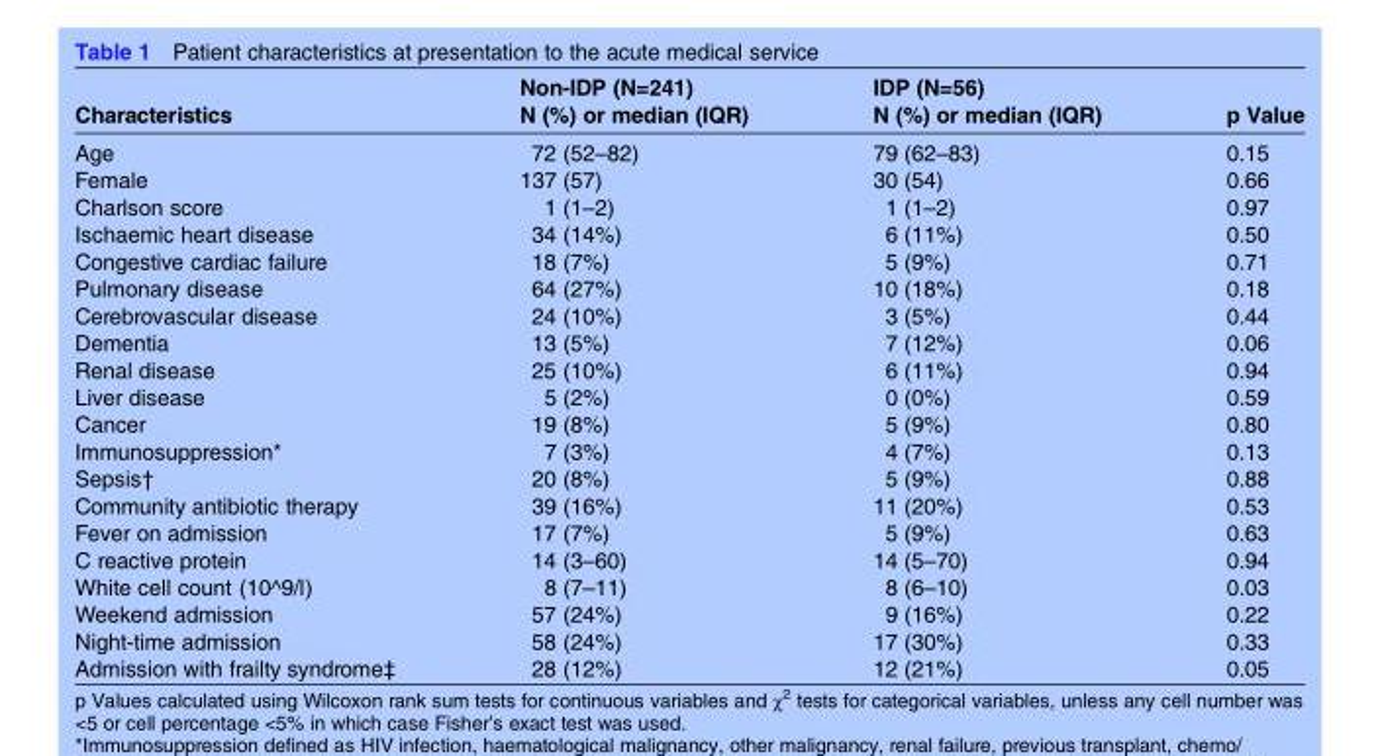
<table><thead><tr><td rowspan="2">Characteristics</td><td rowspan="2">Non-IDP (N=241) N (%) or median (IQR)</td><td rowspan="2">IDP (N=56) N (%) or median (IQR)</td><td rowspan="2">p Value</td></tr><tr></tr></thead><tbody><tr><td>Age</td><td>72 (52–82)</td><td>79 (62–83)</td><td>0.15</td></tr><tr><td>Female</td><td>137 (57)</td><td>30 (54)</td><td>0.66</td></tr><tr><td>Charlson score</td><td>1 (1–2)</td><td>1 (1–2)</td><td>0.97</td></tr><tr><td>Ischaemic heart disease</td><td>34 (14%)</td><td>6 (11%)</td><td>0.50</td></tr><tr><td>Congestive cardiac failure</td><td>18 (7%)</td><td>5 (9%)</td><td>0.71</td></tr><tr><td>Pulmonary disease</td><td>64 (27%)</td><td>10 (18%)</td><td>0.18</td></tr><tr><td>Cerebrovascular disease</td><td>24 (10%)</td><td>3 (5%)</td><td>0.44</td></tr><tr><td>Dementia</td><td>13 (5%)</td><td>7 (12%)</td><td>0.06</td></tr><tr><td>Renal disease</td><td>25 (10%)</td><td>6 (11%)</td><td>0.94</td></tr><tr><td>Liver disease</td><td>5 (2%)</td><td>0 (0%)</td><td>0.59</td></tr><tr><td>Cancer</td><td>19 (8%)</td><td>5 (9%)</td><td>0.80</td></tr><tr><td>Immunosuppression*</td><td>7 (3%)</td><td>4 (7%)</td><td>0.13</td></tr><tr><td>Sepsis†</td><td>20 (8%)</td><td>5 (9%)</td><td>0.88</td></tr><tr><td>Community antibiotic therapy</td><td>39 (16%)</td><td>11 (20%)</td><td>0.53</td></tr><tr><td>Fever on admission</td><td>17 (7%)</td><td>5 (9%)</td><td>0.63</td></tr><tr><td>C reactive protein</td><td>14 (3–60)</td><td>14 (5–70)</td><td>0.94</td></tr><tr><td>White cell count (10^9/l)</td><td>8 (7–11)</td><td>8 (6–10)</td><td>0.03</td></tr><tr><td>Weekend admission</td><td>57 (24%)</td><td>9 (16%)</td><td>0.22</td></tr><tr><td>Night-time admission</td><td>58 (24%)</td><td>17 (30%)</td><td>0.33</td></tr><tr><td>Admission with frailty syndrome‡</td><td>28 (12%)</td><td>12 (21%)</td><td>0.05</td></tr></tbody></table>